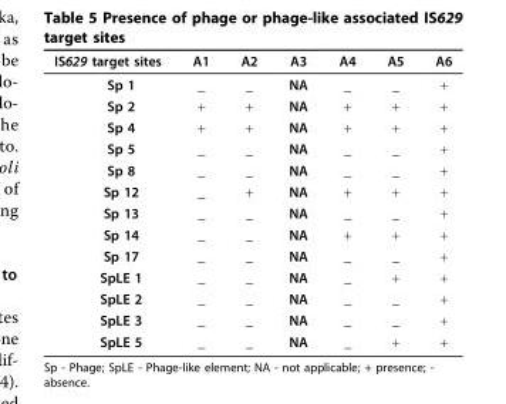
<table><thead><tr><td>IS629 target sites</td><td>A1</td><td>A2</td><td>A3</td><td>A4</td><td>A5</td><td>A6</td></tr></thead><tbody><tr><td>Sp 1</td><td>_</td><td>_</td><td>NA</td><td>_</td><td>_</td><td>+</td></tr><tr><td>Sp 2</td><td>+</td><td>+</td><td>NA</td><td>+</td><td>+</td><td>+</td></tr><tr><td>Sp 4</td><td>+</td><td>+</td><td>NA</td><td>+</td><td>+</td><td>+</td></tr><tr><td>Sp 5</td><td>_</td><td>_</td><td>NA</td><td>_</td><td>_</td><td>+</td></tr><tr><td>Sp 8</td><td>_</td><td>_</td><td>NA</td><td>_</td><td>_</td><td>+</td></tr><tr><td>Sp 12</td><td>_</td><td>+</td><td>NA</td><td>+</td><td>+</td><td>+</td></tr><tr><td>Sp 13</td><td>_</td><td>_</td><td>NA</td><td>_</td><td>_</td><td>+</td></tr><tr><td>Sp 14</td><td>_</td><td>_</td><td>NA</td><td>+</td><td>+</td><td>+</td></tr><tr><td>Sp 17</td><td>_</td><td>_</td><td>NA</td><td>_</td><td>_</td><td>+</td></tr><tr><td>SpLE 1</td><td>_</td><td>_</td><td>NA</td><td>_</td><td>+</td><td>+</td></tr><tr><td>SpLE 2</td><td>_</td><td>_</td><td>NA</td><td>_</td><td>_</td><td>+</td></tr><tr><td>SpLE 3</td><td>_</td><td>_</td><td>NA</td><td>_</td><td>_</td><td>+</td></tr><tr><td>SpLE 5</td><td>_</td><td>_</td><td>NA</td><td>_</td><td>+</td><td>+</td></tr></tbody></table>